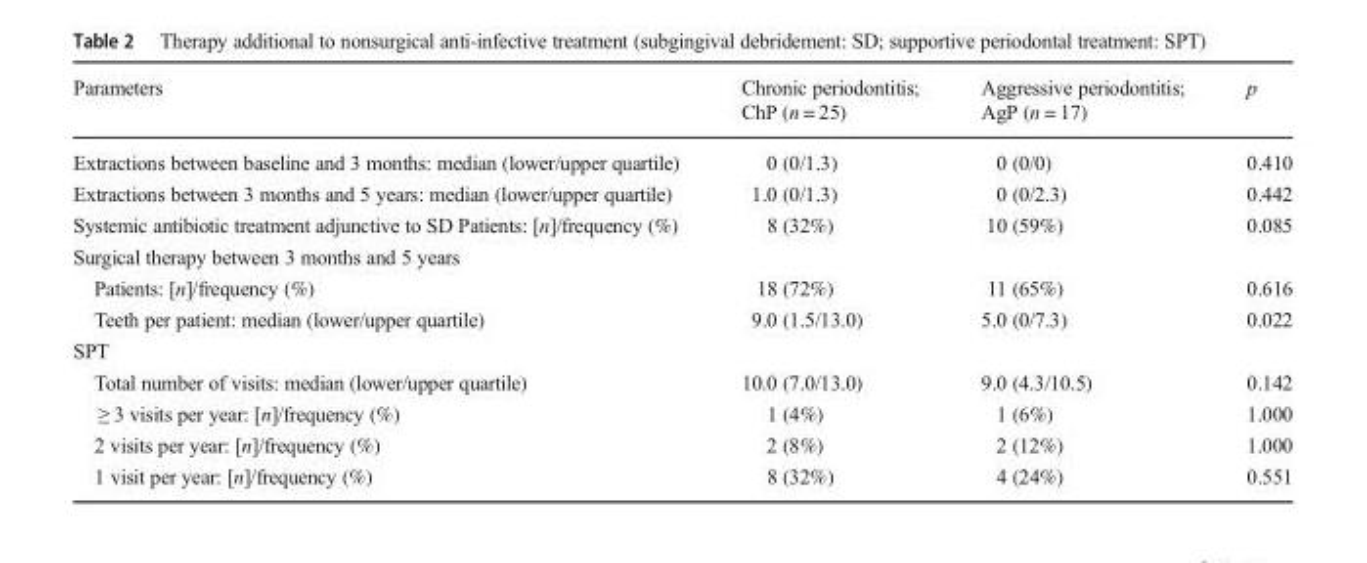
<table><thead><tr><td>Parameters</td><td>Chronic periodontitis; ChP (n = 25)</td><td>Aggressive periodontitis; AgP (n = 17)</td><td>p</td></tr></thead><tbody><tr><td>Extractions between baseline and 3 months: median (lower/upper quartile)</td><td>0 (0/1.3)</td><td>0 (0/0)</td><td>0.410</td></tr><tr><td>Extractions between 3 months and 5 years: median (lower/upper quartile)</td><td>1.0 (0/1.3)</td><td>0 (0/2.3)</td><td>0.442</td></tr><tr><td>Systemic antibiotic treatment adjunctive to SD Patients: [n]/frequency (%)</td><td>8 (32%)</td><td>10 (59%)</td><td>0.085</td></tr><tr><td colspan="4">Surgical therapy between 3 months and 5 years</td></tr><tr><td>Patients: [n]/frequency (%)</td><td>18 (72%)</td><td>11 (65%)</td><td>0.616</td></tr><tr><td>Teeth per patient: median (lower/upper quartile)</td><td>9.0 (1.5/13.0)</td><td>5.0 (0/7.3)</td><td>0.022</td></tr><tr><td colspan="4">SPT</td></tr><tr><td>Total number of visits: median (lower/upper quartile)</td><td>10.0 (7.0/13.0)</td><td>9.0 (4.3/10.5)</td><td>0.142</td></tr><tr><td>≥ 3 visits per year: [n]/frequency (%)</td><td>1 (4%)</td><td>1 (6%)</td><td>1.000</td></tr><tr><td>2 visits per year: [n]/frequency (%)</td><td>2 (8%)</td><td>2 (12%)</td><td>1.000</td></tr><tr><td>1 visit per year: [n]/frequency (%)</td><td>8 (32%)</td><td>4 (24%)</td><td>0.551</td></tr></tbody></table>